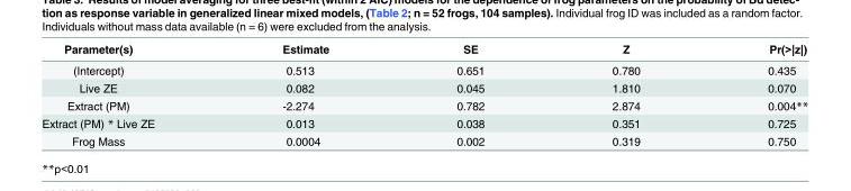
<table><thead><tr><td>Parameter(s)</td><td>Estimate</td><td>SE</td><td>Z</td><td>Pr(&gt;|z|)</td></tr></thead><tbody><tr><td>(Intercept)</td><td>0.513</td><td>0.651</td><td>0.780</td><td>0.435</td></tr><tr><td>Live ZE</td><td>0.082</td><td>0.045</td><td>1.810</td><td>0.070</td></tr><tr><td>Extract (PM)</td><td>-2.274</td><td>0.782</td><td>2.874</td><td>0.004**</td></tr><tr><td>Extract (PM) * Live ZE</td><td>0.013</td><td>0.038</td><td>0.351</td><td>0.725</td></tr><tr><td>Frog Mass</td><td>0.0004</td><td>0.002</td><td>0.319</td><td>0.750</td></tr></tbody></table>